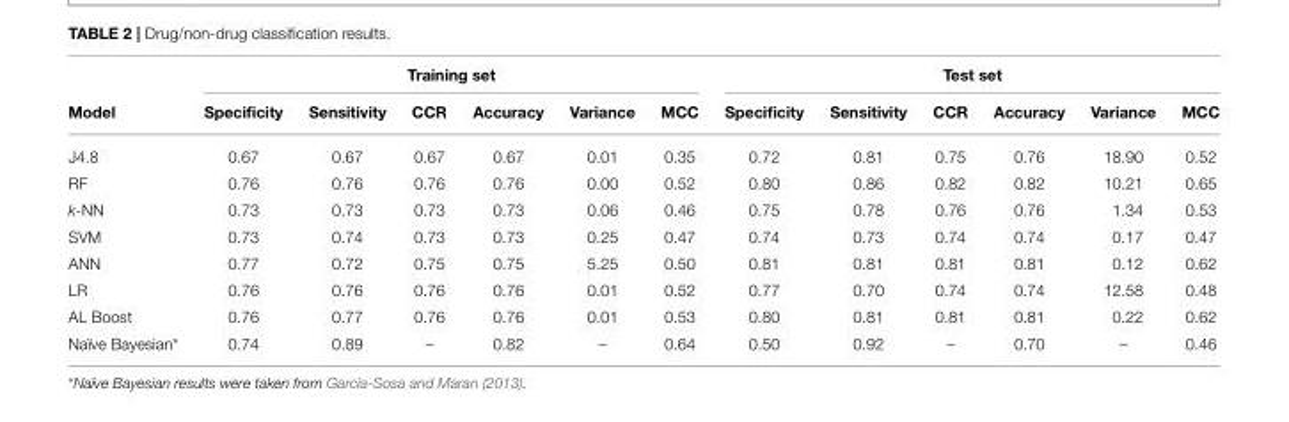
<table><thead><tr><td rowspan="2">Model</td><td colspan="6">Training set</td><td colspan="6">Test set</td></tr><tr><td>Specificity</td><td>Sensitivity</td><td>CCR</td><td>Accuracy</td><td>Variance</td><td>MCC</td><td>Specificity</td><td>Sensitivity</td><td>CCR</td><td>Accuracy</td><td>Variance</td><td>MCC</td></tr></thead><tbody><tr><td>J4.8</td><td>0.67</td><td>0.67</td><td>0.67</td><td>0.67</td><td>0.01</td><td>0.35</td><td>0.72</td><td>0.81</td><td>0.75</td><td>0.76</td><td>18.90</td><td>0.52</td></tr><tr><td>RF</td><td>0.76</td><td>0.76</td><td>0.76</td><td>0.76</td><td>0.00</td><td>0.52</td><td>0.80</td><td>0.86</td><td>0.82</td><td>0.82</td><td>10.21</td><td>0.65</td></tr><tr><td>k-NN</td><td>0.73</td><td>0.73</td><td>0.73</td><td>0.73</td><td>0.06</td><td>0.46</td><td>0.75</td><td>0.78</td><td>0.76</td><td>0.76</td><td>1.34</td><td>0.53</td></tr><tr><td>SVM</td><td>0.73</td><td>0.74</td><td>0.73</td><td>0.73</td><td>0.25</td><td>0.47</td><td>0.74</td><td>0.73</td><td>0.74</td><td>0.74</td><td>0.17</td><td>0.47</td></tr><tr><td>ANN</td><td>0.77</td><td>0.72</td><td>0.75</td><td>0.75</td><td>5.25</td><td>0.50</td><td>0.81</td><td>0.81</td><td>0.81</td><td>0.81</td><td>0.12</td><td>0.62</td></tr><tr><td>LR</td><td>0.76</td><td>0.76</td><td>0.76</td><td>0.76</td><td>0.01</td><td>0.52</td><td>0.77</td><td>0.70</td><td>0.74</td><td>0.74</td><td>12.58</td><td>0.48</td></tr><tr><td>AL Boost</td><td>0.76</td><td>0.77</td><td>0.76</td><td>0.76</td><td>0.01</td><td>0.53</td><td>0.80</td><td>0.81</td><td>0.81</td><td>0.81</td><td>0.22</td><td>0.62</td></tr><tr><td>Naïve Bayesian*</td><td>0.74</td><td>0.89</td><td>–</td><td>0.82</td><td>–</td><td>0.64</td><td>0.50</td><td>0.92</td><td>–</td><td>0.70</td><td>–</td><td>0.46</td></tr></tbody></table>